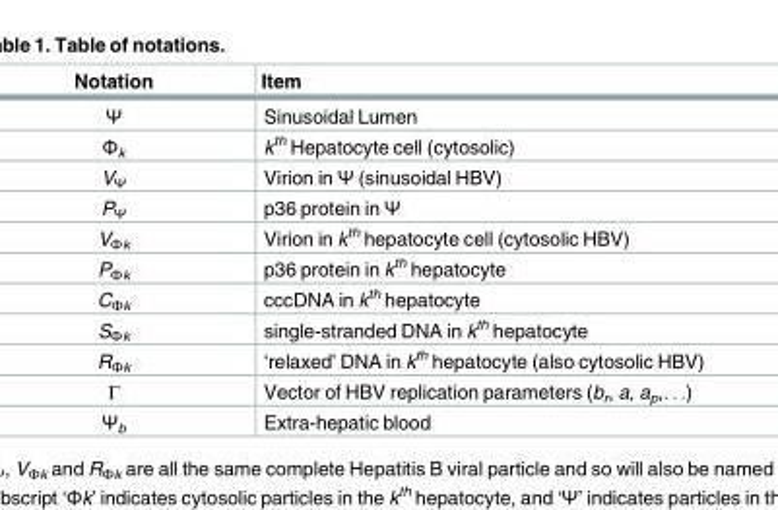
<table><thead><tr><td>Notation</td><td>Item</td></tr></thead><tbody><tr><td>Ψ</td><td>Sinusoidal Lumen</td></tr><tr><td>Φ<sub>k</sub></td><td>k<sup>th</sup> Hepatocyte cell (cytosolic)</td></tr><tr><td>V<sub>Ψ</sub></td><td>Virion in Ψ (sinusoidal HBV)</td></tr><tr><td>P<sub>Ψ</sub></td><td>p36 protein in Ψ</td></tr><tr><td>V<sub>Φk</sub></td><td>Virion in k<sup>th</sup> hepatocyte cell (cytosolic HBV)</td></tr><tr><td>P<sub>Φk</sub></td><td>p36 protein in k<sup>th</sup> hepatocyte</td></tr><tr><td>C<sub>Φk</sub></td><td>cccDNA in k<sup>th</sup> hepatocyte</td></tr><tr><td>S<sub>Φk</sub></td><td>single-stranded DNA in k<sup>th</sup> hepatocyte</td></tr><tr><td>R<sub>Φk</sub></td><td>‘relaxed’ DNA in k<sup>th</sup> hepatocyte (also cytosolic HBV)</td></tr><tr><td>Γ</td><td>Vector of HBV replication parameters (b<sub>r</sub>, a, a<sub>p</sub>,. . .)</td></tr><tr><td>Ψ<sub>b</sub></td><td>Extra-hepatic blood</td></tr></tbody></table>